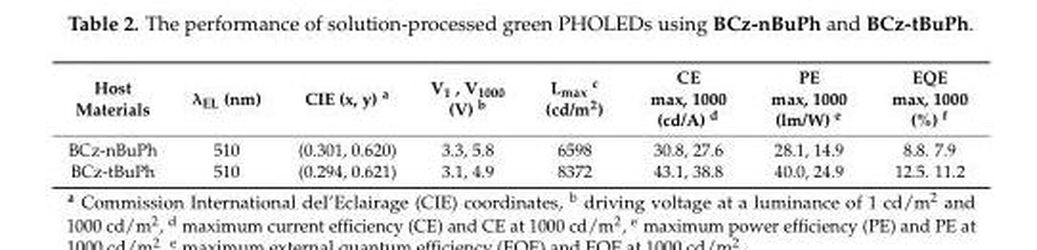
<table><thead><tr><td>Host Materials</td><td>λEL (nm)</td><td>CIE (x, y) a</td><td>V1 , V1000 (V) b</td><td>Lmax c (cd/m2)</td><td>CE max, 1000 (cd/A) d</td><td>PE max, 1000 (lm/W) e</td><td>EQE max, 1000 (%) f</td></tr></thead><tbody><tr><td>BCz-nBuPh</td><td>510</td><td>(0.301, 0.620)</td><td>3.3, 5.8</td><td>6598</td><td>30.8, 27.6</td><td>28.1, 14.9</td><td>8.8. 7.9</td></tr><tr><td>BCz-tBuPh</td><td>510</td><td>(0.294, 0.621)</td><td>3.1, 4.9</td><td>8372</td><td>43.1, 38.8</td><td>40.0, 24.9</td><td>12.5. 11.2</td></tr></tbody></table>